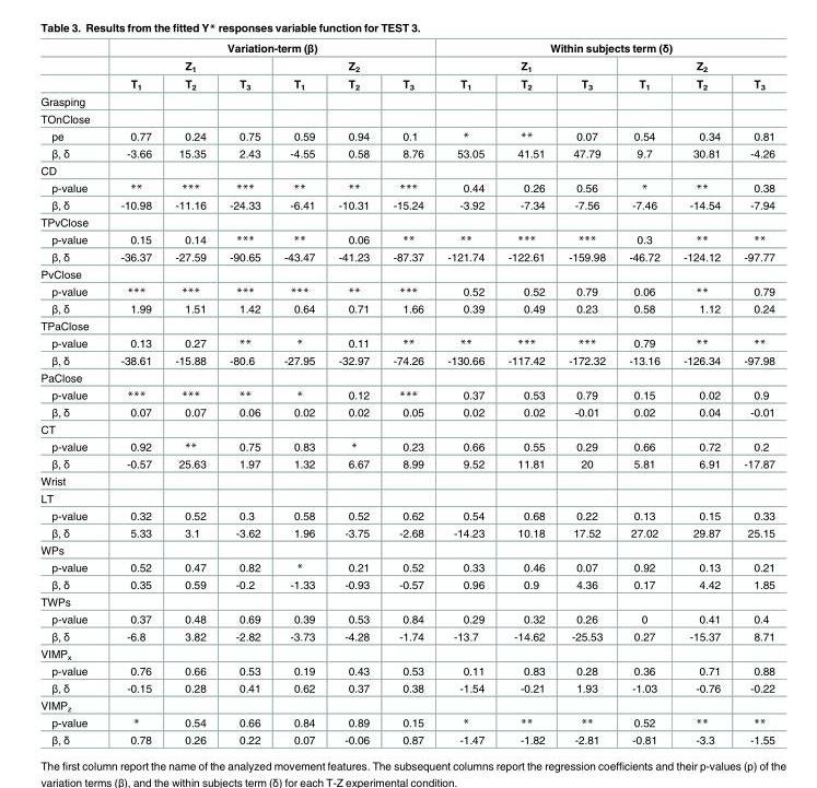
<table><thead><tr><td rowspan="3"></td><td colspan="6">Variation-term (β)</td><td colspan="6">Within subjects term (δ)</td></tr><tr><td colspan="3">Z<sub>1</sub></td><td colspan="3">Z<sub>2</sub></td><td colspan="3">Z<sub>1</sub></td><td colspan="3">Z<sub>2</sub></td></tr><tr><td>T<sub>1</sub></td><td>T<sub>2</sub></td><td>T<sub>3</sub></td><td>T<sub>1</sub></td><td>T<sub>2</sub></td><td>T<sub>3</sub></td><td>T<sub>1</sub></td><td>T<sub>2</sub></td><td>T<sub>3</sub></td><td>T<sub>1</sub></td><td>T<sub>2</sub></td><td>T<sub>3</sub></td></tr></thead><tbody><tr><td colspan="13">Grasping</td></tr><tr><td colspan="13">TOnClose</td></tr><tr><td>pe</td><td>0.77</td><td>0.24</td><td>0.75</td><td>0.59</td><td>0.94</td><td>0.1</td><td>*</td><td>**</td><td>0.07</td><td>0.54</td><td>0.34</td><td>0.81</td></tr><tr><td>β, δ</td><td>-3.66</td><td>15.35</td><td>2.43</td><td>-4.55</td><td>0.58</td><td>8.76</td><td>53.05</td><td>41.51</td><td>47.79</td><td>9.7</td><td>30.81</td><td>-4.26</td></tr><tr><td colspan="13">CD</td></tr><tr><td>p-value</td><td>**</td><td>***</td><td>***</td><td>**</td><td>**</td><td>***</td><td>0.44</td><td>0.26</td><td>0.56</td><td>*</td><td>**</td><td>0.38</td></tr><tr><td>β, δ</td><td>-10.98</td><td>-11.16</td><td>-24.33</td><td>-6.41</td><td>-10.31</td><td>-15.24</td><td>-3.92</td><td>-7.34</td><td>-7.56</td><td>-7.46</td><td>-14.54</td><td>-7.94</td></tr><tr><td colspan="13">TPvClose</td></tr><tr><td>p-value</td><td>0.15</td><td>0.14</td><td>***</td><td>**</td><td>0.06</td><td>**</td><td>**</td><td>***</td><td>***</td><td>0.3</td><td>**</td><td>**</td></tr><tr><td>β, δ</td><td>-36.37</td><td>-27.59</td><td>-90.65</td><td>-43.47</td><td>-41.23</td><td>-87.37</td><td>-121.74</td><td>-122.61</td><td>-159.98</td><td>-46.72</td><td>-124.12</td><td>-97.77</td></tr><tr><td colspan="13">PvClose</td></tr><tr><td>p-value</td><td>***</td><td>***</td><td>***</td><td>***</td><td>**</td><td>***</td><td>0.52</td><td>0.52</td><td>0.79</td><td>0.06</td><td>**</td><td>0.79</td></tr><tr><td>β, δ</td><td>1.99</td><td>1.51</td><td>1.42</td><td>0.64</td><td>0.71</td><td>1.66</td><td>0.39</td><td>0.49</td><td>0.23</td><td>0.58</td><td>1.12</td><td>0.24</td></tr><tr><td colspan="13">TPaClose</td></tr><tr><td>p-value</td><td>0.13</td><td>0.27</td><td>**</td><td>*</td><td>0.11</td><td>**</td><td>**</td><td>***</td><td>***</td><td>0.79</td><td>**</td><td>**</td></tr><tr><td>β, δ</td><td>-38.61</td><td>-15.88</td><td>-80.6</td><td>-27.95</td><td>-32.97</td><td>-74.26</td><td>-130.66</td><td>-117.42</td><td>-172.32</td><td>-13.16</td><td>-126.34</td><td>-97.98</td></tr><tr><td colspan="13">PaClose</td></tr><tr><td>p-value</td><td>***</td><td>***</td><td>**</td><td>*</td><td>0.12</td><td>***</td><td>0.37</td><td>0.53</td><td>0.79</td><td>0.15</td><td>0.02</td><td>0.9</td></tr><tr><td>β, δ</td><td>0.07</td><td>0.07</td><td>0.06</td><td>0.02</td><td>0.02</td><td>0.05</td><td>0.02</td><td>0.02</td><td>-0.01</td><td>0.02</td><td>0.04</td><td>-0.01</td></tr><tr><td colspan="13">CT</td></tr><tr><td>p-value</td><td>0.92</td><td>**</td><td>0.75</td><td>0.83</td><td>*</td><td>0.23</td><td>0.66</td><td>0.55</td><td>0.29</td><td>0.66</td><td>0.72</td><td>0.2</td></tr><tr><td>β, δ</td><td>-0.57</td><td>25.63</td><td>1.97</td><td>1.32</td><td>6.67</td><td>8.99</td><td>9.52</td><td>11.81</td><td>20</td><td>5.81</td><td>6.91</td><td>-17.87</td></tr><tr><td colspan="13">Wrist</td></tr><tr><td colspan="13">LT</td></tr><tr><td>p-value</td><td>0.32</td><td>0.52</td><td>0.3</td><td>0.58</td><td>0.52</td><td>0.62</td><td>0.54</td><td>0.68</td><td>0.22</td><td>0.13</td><td>0.15</td><td>0.33</td></tr><tr><td>β, δ</td><td>5.33</td><td>3.1</td><td>-3.62</td><td>1.96</td><td>-3.75</td><td>-2.68</td><td>-14.23</td><td>10.18</td><td>17.52</td><td>27.02</td><td>29.87</td><td>25.15</td></tr><tr><td colspan="13">WPs</td></tr><tr><td>p-value</td><td>0.52</td><td>0.47</td><td>0.82</td><td>*</td><td>0.21</td><td>0.52</td><td>0.33</td><td>0.46</td><td>0.07</td><td>0.92</td><td>0.13</td><td>0.21</td></tr><tr><td>β, δ</td><td>0.35</td><td>0.59</td><td>-0.2</td><td>-1.33</td><td>-0.93</td><td>-0.57</td><td>0.96</td><td>0.9</td><td>4.36</td><td>0.17</td><td>4.42</td><td>1.85</td></tr><tr><td colspan="13">TWPs</td></tr><tr><td>p-value</td><td>0.37</td><td>0.48</td><td>0.69</td><td>0.39</td><td>0.53</td><td>0.84</td><td>0.29</td><td>0.32</td><td>0.26</td><td>0</td><td>0.41</td><td>0.4</td></tr><tr><td>β, δ</td><td>-6.8</td><td>3.82</td><td>-2.82</td><td>-3.73</td><td>-4.28</td><td>-1.74</td><td>-13.7</td><td>-14.62</td><td>-25.53</td><td>0.27</td><td>-15.37</td><td>8.71</td></tr><tr><td colspan="13">VIMP<sub>x</sub></td></tr><tr><td>p-value</td><td>0.76</td><td>0.66</td><td>0.53</td><td>0.19</td><td>0.43</td><td>0.53</td><td>0.11</td><td>0.83</td><td>0.28</td><td>0.36</td><td>0.71</td><td>0.88</td></tr><tr><td>β, δ</td><td>-0.15</td><td>0.28</td><td>0.41</td><td>0.62</td><td>0.37</td><td>0.38</td><td>-1.54</td><td>-0.21</td><td>1.93</td><td>-1.03</td><td>-0.76</td><td>-0.22</td></tr><tr><td colspan="13">VIMP<sub>z</sub></td></tr><tr><td>p-value</td><td>*</td><td>0.54</td><td>0.66</td><td>0.84</td><td>0.89</td><td>0.15</td><td>*</td><td>**</td><td>**</td><td>0.52</td><td>**</td><td>**</td></tr><tr><td>β, δ</td><td>0.78</td><td>0.26</td><td>0.22</td><td>0.07</td><td>-0.06</td><td>0.87</td><td>-1.47</td><td>-1.82</td><td>-2.81</td><td>-0.81</td><td>-3.3</td><td>-1.55</td></tr></tbody></table>